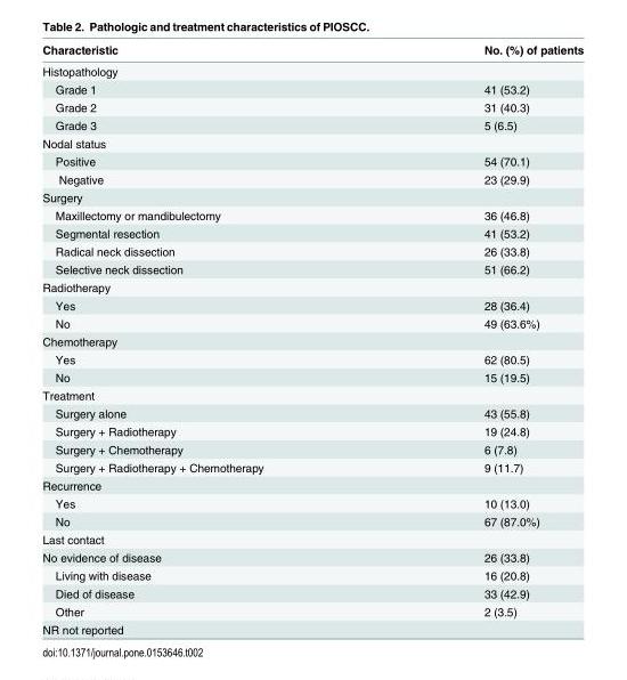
<table><thead><tr><td>Characteristic</td><td>No. (%) of patients</td></tr></thead><tbody><tr><td colspan="2">Histopathology</td></tr><tr><td>Grade 1</td><td>41 (53.2)</td></tr><tr><td>Grade 2</td><td>31 (40.3)</td></tr><tr><td>Grade 3</td><td>5 (6.5)</td></tr><tr><td colspan="2">Nodal status</td></tr><tr><td>Positive</td><td>54 (70.1)</td></tr><tr><td>Negative</td><td>23 (29.9)</td></tr><tr><td colspan="2">Surgery</td></tr><tr><td>Maxillectomy or mandibulectomy</td><td>36 (46.8)</td></tr><tr><td>Segmental resection</td><td>41 (53.2)</td></tr><tr><td>Radical neck dissection</td><td>26 (33.8)</td></tr><tr><td>Selective neck dissection</td><td>51 (66.2)</td></tr><tr><td colspan="2">Radiotherapy</td></tr><tr><td>Yes</td><td>28 (36.4)</td></tr><tr><td>No</td><td>49 (63.6%)</td></tr><tr><td colspan="2">Chemotherapy</td></tr><tr><td>Yes</td><td>62 (80.5)</td></tr><tr><td>No</td><td>15 (19.5)</td></tr><tr><td colspan="2">Treatment</td></tr><tr><td>Surgery alone</td><td>43 (55.8)</td></tr><tr><td>Surgery + Radiotherapy</td><td>19 (24.8)</td></tr><tr><td>Surgery + Chemotherapy</td><td>6 (7.8)</td></tr><tr><td>Surgery + Radiotherapy + Chemotherapy</td><td>9 (11.7)</td></tr><tr><td colspan="2">Recurrence</td></tr><tr><td>Yes</td><td>10 (13.0)</td></tr><tr><td>No</td><td>67 (87.0%)</td></tr><tr><td colspan="2">Last contact</td></tr><tr><td>No evidence of disease</td><td>26 (33.8)</td></tr><tr><td>Living with disease</td><td>16 (20.8)</td></tr><tr><td>Died of disease</td><td>33 (42.9)</td></tr><tr><td>Other</td><td>2 (3.5)</td></tr><tr><td>NR not reported</td><td></td></tr></tbody></table>